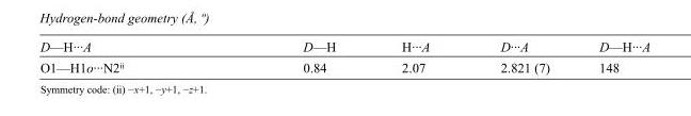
<table><tbody><tr><td>D—H···A</td><td>D—H</td><td>H···A</td><td>D···A</td><td>D—H···A</td></tr><tr><td>O1—H1o···N2<sup>ii</sup></td><td>0.84</td><td>2.07</td><td>2.821 (7)</td><td>148</td></tr></tbody></table>